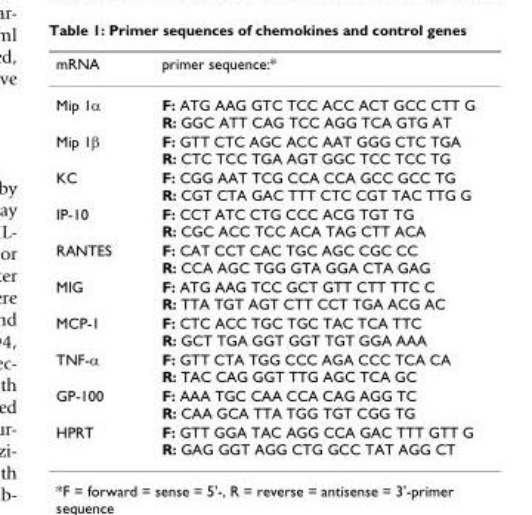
<table><thead><tr><td>mRNA</td><td>primer sequence:*</td></tr></thead><tbody><tr><td>Mip 1α</td><td>F: ATG AAG GTC TCC ACC ACT GCC CTT G R: GGC ATT CAG TCC AGG TCA GTG AT</td></tr><tr><td>Mip 1β</td><td>F: GTT CTC AGC ACC AAT GGG CTC TGA R: CTC TCC TGA AGT GGC TCC TCC TG</td></tr><tr><td>KC</td><td>F: CGG AAT TCG CCA CCA GCC GCC TG R: CGT CTA GAC TTT CTC CGT TAC TTG G</td></tr><tr><td>IP-10</td><td>F: CCT ATC CTG CCC ACG TGT TG R: CGC ACC TCC ACA TAG CTT ACA</td></tr><tr><td>RANTES</td><td>F: CAT CCT CAC TGC AGC CGC CC R: CCA AGC TGG GTA GGA CTA GAG</td></tr><tr><td>MIG</td><td>F: ATG AAG TCC GCT GTT CTT TTC C R: TTA TGT AGT CTT CCT TGA ACG AC</td></tr><tr><td>MCP-1</td><td>F: CTC ACC TGC TGC TAC TCA TTC R: GCT TGA GGT GGT TGT GGA AAA</td></tr><tr><td>TNF-α</td><td>F: GTT CTA TGG CCC AGA CCC TCA CA R: TAC CAG GGT TTG AGC TCA GC</td></tr><tr><td>GP-100</td><td>F: AAA TGC CAA CCA CAG AGG TC R: CAA GCA TTA TGG TGT CGG TG</td></tr><tr><td>HPRT</td><td>F: GTT GGA TAC AGG CCA GAC TTT GTT G R: GAG GGT AGG CTG GCC TAT AGG CT</td></tr></tbody></table>